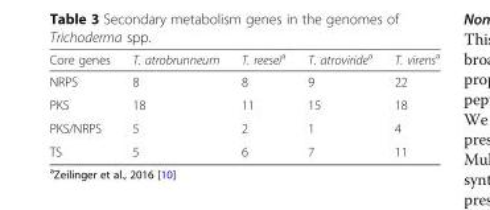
<table><thead><tr><td>Core genes</td><td>T. atrobrunneum</td><td>T. reesei<sup>a</sup></td><td>T. atroviride<sup>a</sup></td><td>T. virens<sup>a</sup></td></tr></thead><tbody><tr><td>NRPS</td><td>8</td><td>8</td><td>9</td><td>22</td></tr><tr><td>PKS</td><td>18</td><td>11</td><td>15</td><td>18</td></tr><tr><td>PKS/NRPS</td><td>5</td><td>2</td><td>1</td><td>4</td></tr><tr><td>TS</td><td>5</td><td>6</td><td>7</td><td>11</td></tr></tbody></table>